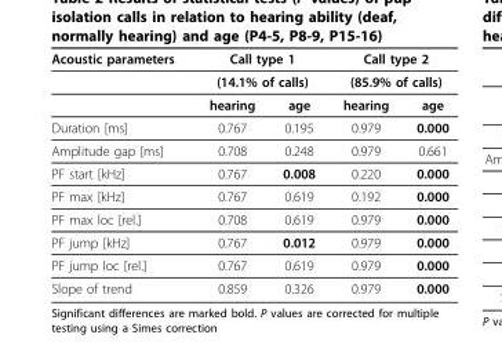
<table><thead><tr><td rowspan="3">Acoustic parameters</td><td rowspan="2" colspan="2">Call type 1 (14.1% of calls)</td><td rowspan="2" colspan="2">Call type 2 (85.9% of calls)</td></tr><tr></tr><tr><td>hearing</td><td>age</td><td>hearing</td><td>age</td></tr></thead><tbody><tr><td>Duration [ms]</td><td>0.767</td><td>0.195</td><td>0.979</td><td>0.000</td></tr><tr><td>Amplitude gap [ms]</td><td>0.708</td><td>0.248</td><td>0.979</td><td>0.661</td></tr><tr><td>PF start [kHz]</td><td>0.767</td><td>0.008</td><td>0.220</td><td>0.000</td></tr><tr><td>PF max [kHz]</td><td>0.767</td><td>0.619</td><td>0.192</td><td>0.000</td></tr><tr><td>PF max loc [rel.]</td><td>0.708</td><td>0.619</td><td>0.979</td><td>0.000</td></tr><tr><td>PF jump [kHz]</td><td>0.767</td><td>0.012</td><td>0.979</td><td>0.000</td></tr><tr><td>PF jump loc [rel.]</td><td>0.767</td><td>0.619</td><td>0.979</td><td>0.000</td></tr><tr><td>Slope of trend</td><td>0.859</td><td>0.326</td><td>0.979</td><td>0.000</td></tr></tbody></table>